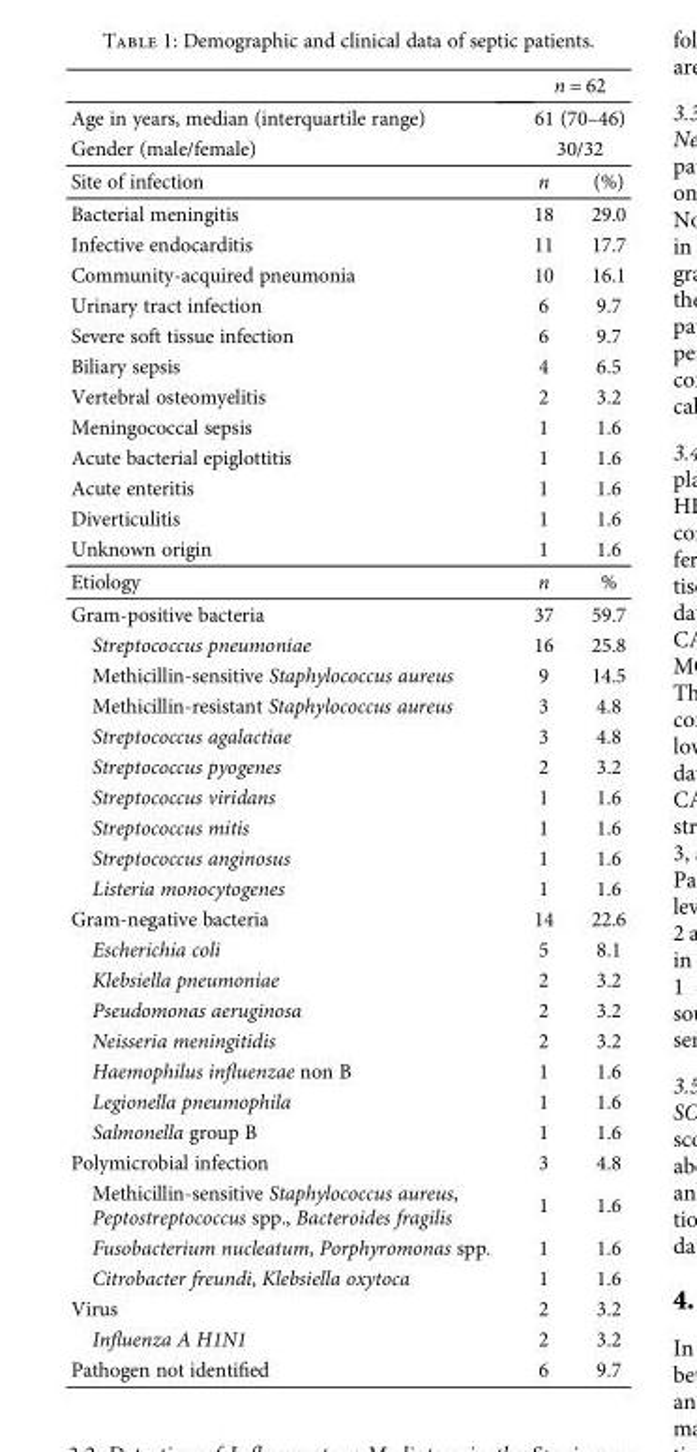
<table><thead><tr><td rowspan="4">Age in years, median (interquartile range) Gender (male/female) Site of infection</td><td rowspan="3" colspan="2">n = 62 61 (70–46) 30/32</td></tr><tr></tr><tr></tr><tr><td>n</td><td>(%)</td></tr></thead><tbody><tr><td>Bacterial meningitis</td><td>18</td><td>29.0</td></tr><tr><td>Infective endocarditis</td><td>11</td><td>17.7</td></tr><tr><td>Community-acquired pneumonia</td><td>10</td><td>16.1</td></tr><tr><td>Urinary tract infection</td><td>6</td><td>9.7</td></tr><tr><td>Severe soft tissue infection</td><td>6</td><td>9.7</td></tr><tr><td>Biliary sepsis</td><td>4</td><td>6.5</td></tr><tr><td>Vertebral osteomyelitis</td><td>2</td><td>3.2</td></tr><tr><td>Meningococcal sepsis</td><td>1</td><td>1.6</td></tr><tr><td>Acute bacterial epiglottitis</td><td>1</td><td>1.6</td></tr><tr><td>Acute enteritis</td><td>1</td><td>1.6</td></tr><tr><td>Diverticulitis</td><td>1</td><td>1.6</td></tr><tr><td>Unknown origin</td><td>1</td><td>1.6</td></tr><tr><td>Etiology</td><td>n</td><td>%</td></tr><tr><td>Gram-positive bacteria</td><td>37</td><td>59.7</td></tr><tr><td>Streptococcus pneumoniae</td><td>16</td><td>25.8</td></tr><tr><td>Methicillin-sensitive Staphylococcus aureus</td><td>9</td><td>14.5</td></tr><tr><td>Methicillin-resistant Staphylococcus aureus</td><td>3</td><td>4.8</td></tr><tr><td>Streptococcus agalactiae</td><td>3</td><td>4.8</td></tr><tr><td>Streptococcus pyogenes</td><td>2</td><td>3.2</td></tr><tr><td>Streptococcus viridans</td><td>1</td><td>1.6</td></tr><tr><td>Streptococcus mitis</td><td>1</td><td>1.6</td></tr><tr><td>Streptococcus anginosus</td><td>1</td><td>1.6</td></tr><tr><td>Listeria monocytogenes</td><td>1</td><td>1.6</td></tr><tr><td>Gram-negative bacteria</td><td>14</td><td>22.6</td></tr><tr><td>Escherichia coli</td><td>5</td><td>8.1</td></tr><tr><td>Klebsiella pneumoniae</td><td>2</td><td>3.2</td></tr><tr><td>Pseudomonas aeruginosa</td><td>2</td><td>3.2</td></tr><tr><td>Neisseria meningitidis</td><td>2</td><td>3.2</td></tr><tr><td>Haemophilus influenzae non B</td><td>1</td><td>1.6</td></tr><tr><td>Legionella pneumophila</td><td>1</td><td>1.6</td></tr><tr><td>Salmonella group B</td><td>1</td><td>1.6</td></tr><tr><td>Polymicrobial infection</td><td>3</td><td>4.8</td></tr><tr><td>Methicillin-sensitive Staphylococcus aureus, Peptostreptococcus spp., Bacteroides fragilis</td><td>1</td><td>1.6</td></tr><tr><td>Fusobacterium nucleatum, Porphyromonas spp.</td><td>1</td><td>1.6</td></tr><tr><td>Citrobacter freundi, Klebsiella oxytoca</td><td>1</td><td>1.6</td></tr><tr><td>Virus</td><td>2</td><td>3.2</td></tr><tr><td>Influenza A H1N1</td><td>2</td><td>3.2</td></tr><tr><td>Pathogen not identified</td><td>6</td><td>9.7</td></tr></tbody></table>